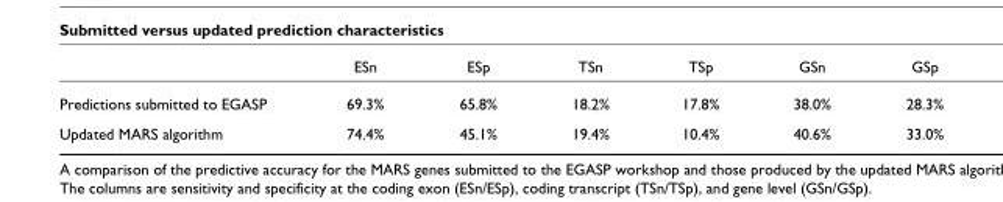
<table><thead><tr><td></td><td>ESn</td><td>ESp</td><td>TSn</td><td>TSp</td><td>GSn</td><td>GSp</td></tr></thead><tbody><tr><td>Predictions submitted to EGASP</td><td>69.3%</td><td>65.8%</td><td>18.2%</td><td>17.8%</td><td>38.0%</td><td>28.3%</td></tr><tr><td>Updated MARS algorithm</td><td>74.4%</td><td>45.1%</td><td>19.4%</td><td>10.4%</td><td>40.6%</td><td>33.0%</td></tr></tbody></table>